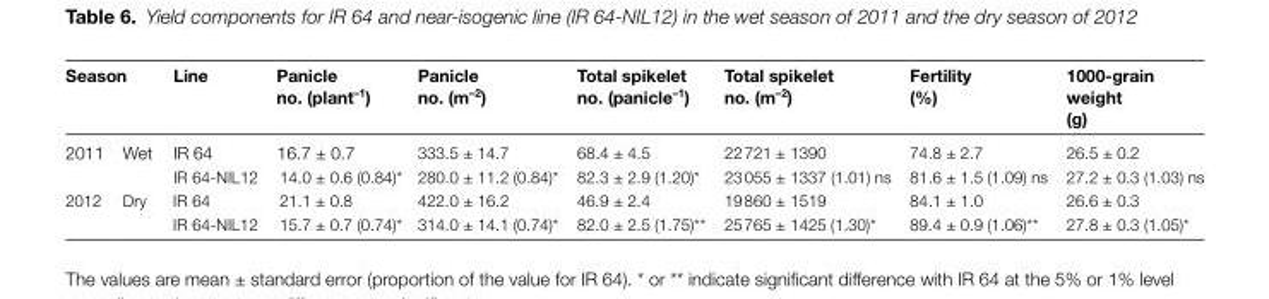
<table><thead><tr><td colspan="2">Season</td><td rowspan="2">Line IR 64</td><td rowspan="2">Panicle no. (plant<sup>–1</sup>) 16.7 ± 0.7</td><td rowspan="2">Panicle no. (m<sup>–2</sup>) 333.5 ± 14.7</td><td rowspan="2">Total spikelet no. (panicle<sup>–1</sup>) 68.4 ± 4.5</td><td rowspan="2">Total spikelet no. (m<sup>–2</sup>) 22 721 ± 1390</td><td rowspan="2">Fertility (%) 74.8 ± 2.7</td><td rowspan="2">1000-grain weight (g) 26.5 ± 0.2</td></tr><tr><td>2011</td><td>Wet</td></tr></thead><tbody><tr><td></td><td></td><td>IR 64-NIL12</td><td>14.0 ± 0.6 (0.84)*</td><td>280.0 ± 11.2 (0.84)*</td><td>82.3 ± 2.9 (1.20)*</td><td>23 055 ± 1337 (1.01) ns</td><td>81.6 ± 1.5 (1.09) ns</td><td>27.2 ± 0.3 (1.03) ns</td></tr><tr><td rowspan="2">2012</td><td>Dry</td><td>IR 64</td><td>21.1 ± 0.8</td><td>422.0 ± 16.2</td><td>46.9 ± 2.4</td><td>19 860 ± 1519</td><td>84.1 ± 1.0</td><td>26.6 ± 0.3</td></tr><tr><td></td><td>IR 64-NIL12</td><td>15.7 ± 0.7 (0.74)*</td><td>314.0 ± 14.1 (0.74)*</td><td>82.0 ± 2.5 (1.75)**</td><td>25 765 ± 1425 (1.30)*</td><td>89.4 ± 0.9 (1.06)**</td><td>27.8 ± 0.3 (1.05)*</td></tr></tbody></table>